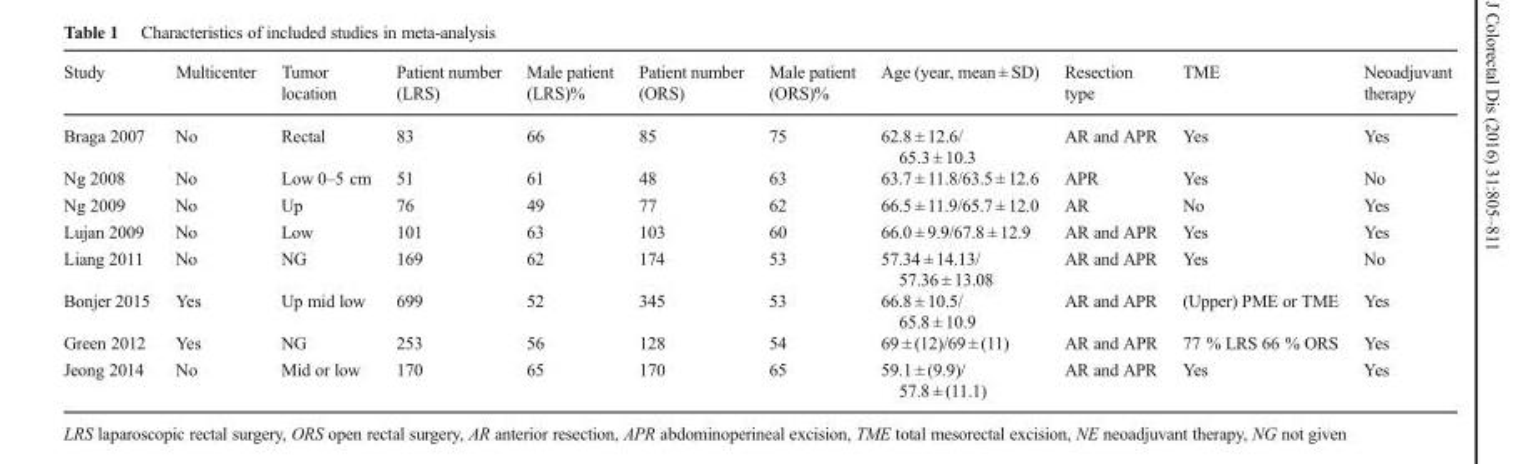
<table><thead><tr><td>Study</td><td>Multicenter</td><td>Tumor location</td><td>Patient number (LRS)</td><td>Male patient (LRS)%</td><td>Patient number (ORS)</td><td>Male patient (ORS)%</td><td>Age (year, mean ± SD)</td><td>Resection type</td><td>TME</td><td>Neoadjuvant therapy</td></tr></thead><tbody><tr><td>Braga 2007</td><td>No</td><td>Rectal</td><td>83</td><td>66</td><td>85</td><td>75</td><td>62.8 ± 12.6/ 65.3 ± 10.3</td><td>AR and APR</td><td>Yes</td><td>Yes</td></tr><tr><td>Ng 2008</td><td>No</td><td>Low 0–5 cm</td><td>51</td><td>61</td><td>48</td><td>63</td><td>63.7 ± 11.8/63.5 ± 12.6</td><td>APR</td><td>Yes</td><td>No</td></tr><tr><td>Ng 2009</td><td>No</td><td>Up</td><td>76</td><td>49</td><td>77</td><td>62</td><td>66.5 ± 11.9/65.7 ± 12.0</td><td>AR</td><td>No</td><td>Yes</td></tr><tr><td>Lujan 2009</td><td>No</td><td>Low</td><td>101</td><td>63</td><td>103</td><td>60</td><td>66.0 ± 9.9/67.8 ± 12.9</td><td>AR and APR</td><td>Yes</td><td>Yes</td></tr><tr><td>Liang 2011</td><td>No</td><td>NG</td><td>169</td><td>62</td><td>174</td><td>53</td><td>57.34 ± 14.13/ 57.36 ± 13.08</td><td>AR and APR</td><td>Yes</td><td>No</td></tr><tr><td>Bonjer 2015</td><td>Yes</td><td>Up mid low</td><td>699</td><td>52</td><td>345</td><td>53</td><td>66.8 ± 10.5/ 65.8 ± 10.9</td><td>AR and APR</td><td>(Upper) PME or TME</td><td>Yes</td></tr><tr><td>Green 2012</td><td>Yes</td><td>NG</td><td>253</td><td>56</td><td>128</td><td>54</td><td>69 ± (12)/69 ± (11)</td><td>AR and APR</td><td>77 % LRS 66 % ORS</td><td>Yes</td></tr><tr><td>Jeong 2014</td><td>No</td><td>Mid or low</td><td>170</td><td>65</td><td>170</td><td>65</td><td>59.1 ± (9.9)/ 57.8 ± (11.1)</td><td>AR and APR</td><td>Yes</td><td>Yes</td></tr></tbody></table>